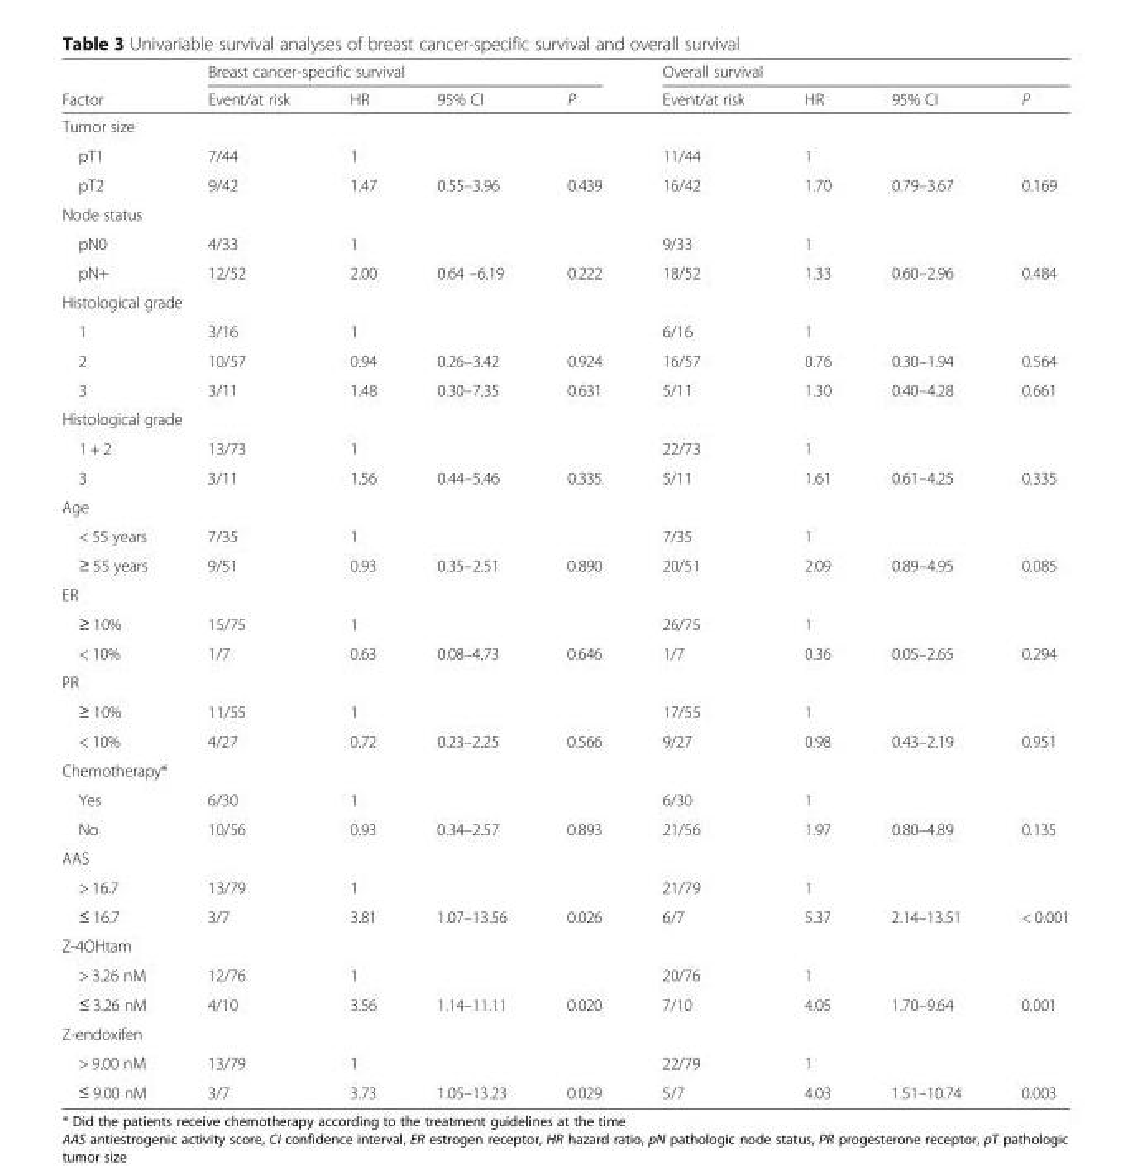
<table><thead><tr><td rowspan="2">Factor</td><td colspan="4">Breast cancer-specific survival</td><td colspan="4">Overall survival</td></tr><tr><td>Event/at risk</td><td>HR</td><td>95% CI</td><td>P</td><td>Event/at risk</td><td>HR</td><td>95% CI</td><td>P</td></tr></thead><tbody><tr><td colspan="9">Tumor size</td></tr><tr><td>pT1</td><td>7/44</td><td>1</td><td></td><td></td><td>11/44</td><td>1</td><td></td><td></td></tr><tr><td>pT2</td><td>9/42</td><td>1.47</td><td>0.55–3.96</td><td>0.439</td><td>16/42</td><td>1.70</td><td>0.79–3.67</td><td>0.169</td></tr><tr><td colspan="9">Node status</td></tr><tr><td>pN0</td><td>4/33</td><td>1</td><td></td><td></td><td>9/33</td><td>1</td><td></td><td></td></tr><tr><td>pN+</td><td>12/52</td><td>2.00</td><td>0.64 –6.19</td><td>0.222</td><td>18/52</td><td>1.33</td><td>0.60–2.96</td><td>0.484</td></tr><tr><td colspan="9">Histological grade</td></tr><tr><td>1</td><td>3/16</td><td>1</td><td></td><td></td><td>6/16</td><td>1</td><td></td><td></td></tr><tr><td>2</td><td>10/57</td><td>0.94</td><td>0.26–3.42</td><td>0.924</td><td>16/57</td><td>0.76</td><td>0.30–1.94</td><td>0.564</td></tr><tr><td>3</td><td>3/11</td><td>1.48</td><td>0.30–7.35</td><td>0.631</td><td>5/11</td><td>1.30</td><td>0.40–4.28</td><td>0.661</td></tr><tr><td colspan="9">Histological grade</td></tr><tr><td>1 + 2</td><td>13/73</td><td>1</td><td></td><td></td><td>22/73</td><td>1</td><td></td><td></td></tr><tr><td>3</td><td>3/11</td><td>1.56</td><td>0.44–5.46</td><td>0.335</td><td>5/11</td><td>1.61</td><td>0.61–4.25</td><td>0.335</td></tr><tr><td colspan="9">Age</td></tr><tr><td>&lt; 55 years</td><td>7/35</td><td>1</td><td></td><td></td><td>7/35</td><td>1</td><td></td><td></td></tr><tr><td>≥ 55 years</td><td>9/51</td><td>0.93</td><td>0.35–2.51</td><td>0.890</td><td>20/51</td><td>2.09</td><td>0.89–4.95</td><td>0.085</td></tr><tr><td colspan="9">ER</td></tr><tr><td>≥ 10%</td><td>15/75</td><td>1</td><td></td><td></td><td>26/75</td><td>1</td><td></td><td></td></tr><tr><td>&lt; 10%</td><td>1/7</td><td>0.63</td><td>0.08–4.73</td><td>0.646</td><td>1/7</td><td>0.36</td><td>0.05–2.65</td><td>0.294</td></tr><tr><td colspan="9">PR</td></tr><tr><td>≥ 10%</td><td>11/55</td><td>1</td><td></td><td></td><td>17/55</td><td>1</td><td></td><td></td></tr><tr><td>&lt; 10%</td><td>4/27</td><td>0.72</td><td>0.23–2.25</td><td>0.566</td><td>9/27</td><td>0.98</td><td>0.43–2.19</td><td>0.951</td></tr><tr><td colspan="9">Chemotherapy*</td></tr><tr><td>Yes</td><td>6/30</td><td>1</td><td></td><td></td><td>6/30</td><td>1</td><td></td><td></td></tr><tr><td>No</td><td>10/56</td><td>0.93</td><td>0.34–2.57</td><td>0.893</td><td>21/56</td><td>1.97</td><td>0.80–4.89</td><td>0.135</td></tr><tr><td colspan="9">AAS</td></tr><tr><td>&gt; 16.7</td><td>13/79</td><td>1</td><td></td><td></td><td>21/79</td><td>1</td><td></td><td></td></tr><tr><td>≤ 16.7</td><td>3/7</td><td>3.81</td><td>1.07–13.56</td><td>0.026</td><td>6/7</td><td>5.37</td><td>2.14–13.51</td><td>&lt; 0.001</td></tr><tr><td colspan="9">Z-4OHtam</td></tr><tr><td>&gt; 3.26 nM</td><td>12/76</td><td>1</td><td></td><td></td><td>20/76</td><td>1</td><td></td><td></td></tr><tr><td>≤ 3.26 nM</td><td>4/10</td><td>3.56</td><td>1.14–11.11</td><td>0.020</td><td>7/10</td><td>4.05</td><td>1.70–9.64</td><td>0.001</td></tr><tr><td colspan="9">Z-endoxifen</td></tr><tr><td>&gt; 9.00 nM</td><td>13/79</td><td>1</td><td></td><td></td><td>22/79</td><td>1</td><td></td><td></td></tr><tr><td>≤ 9.00 nM</td><td>3/7</td><td>3.73</td><td>1.05–13.23</td><td>0.029</td><td>5/7</td><td>4.03</td><td>1.51–10.74</td><td>0.003</td></tr></tbody></table>